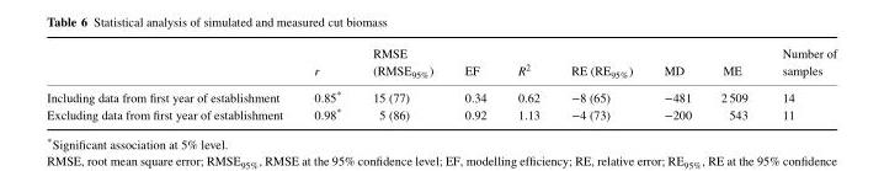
<table><thead><tr><td></td><td>r</td><td>RMSE (RMSE<sub>95%</sub>)</td><td>EF</td><td>R<sup>2</sup></td><td>RE (RE<sub>95%</sub>)</td><td>MD</td><td>ME</td><td>Number of samples</td></tr></thead><tbody><tr><td>Including data from first year of establishment</td><td>0.85*</td><td>15 (77)</td><td>0.34</td><td>0.62</td><td>−8 (65)</td><td>−481</td><td>2 509</td><td>14</td></tr><tr><td>Excluding data from first year of establishment</td><td>0.98*</td><td>5 (86)</td><td>0.92</td><td>1.13</td><td>−4 (73)</td><td>−200</td><td>543</td><td>11</td></tr></tbody></table>